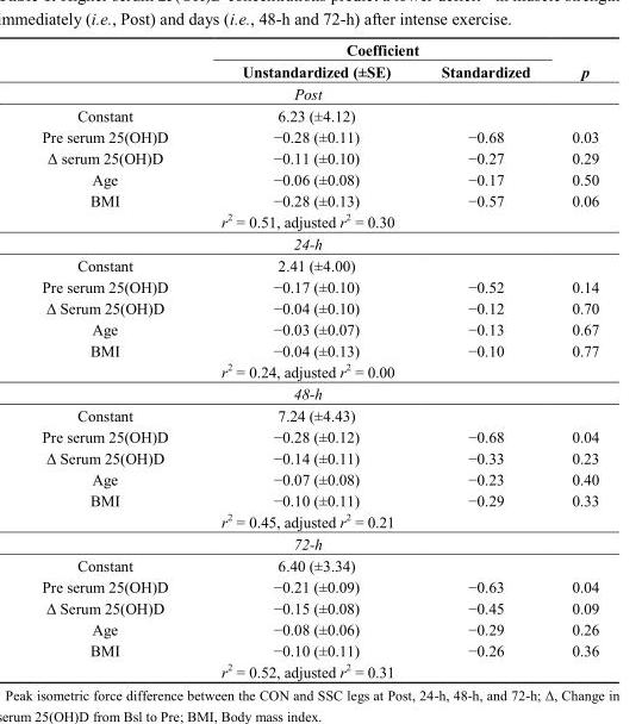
<table><thead><tr><td rowspan="2"></td><td colspan="2">Coefficient</td><td rowspan="2">p</td></tr><tr><td>Unstandardized (±SE)</td><td>Standardized</td></tr></thead><tbody><tr><td colspan="4">Post</td></tr><tr><td>Constant</td><td>6.23 (±4.12)</td><td></td><td></td></tr><tr><td>Pre serum 25(OH)D</td><td>−0.28 (±0.11)</td><td>−0.68</td><td>0.03</td></tr><tr><td>Δ serum 25(OH)D</td><td>−0.11 (±0.10)</td><td>−0.27</td><td>0.29</td></tr><tr><td>Age</td><td>−0.06 (±0.08)</td><td>−0.17</td><td>0.50</td></tr><tr><td>BMI</td><td>−0.28 (±0.13)</td><td>−0.57</td><td>0.06</td></tr><tr><td colspan="4">r<sup>2</sup> = 0.51, adjusted r<sup>2</sup> = 0.30</td></tr><tr><td colspan="4">24-h</td></tr><tr><td>Constant</td><td>2.41 (±4.00)</td><td></td><td></td></tr><tr><td>Pre serum 25(OH)D</td><td>−0.17 (±0.10)</td><td>−0.52</td><td>0.14</td></tr><tr><td>Δ Serum 25(OH)D</td><td>−0.04 (±0.10)</td><td>−0.12</td><td>0.70</td></tr><tr><td>Age</td><td>−0.03 (±0.07)</td><td>−0.13</td><td>0.67</td></tr><tr><td>BMI</td><td>−0.04 (±0.13)</td><td>−0.10</td><td>0.77</td></tr><tr><td colspan="4">r<sup>2</sup> = 0.24, adjusted r<sup>2</sup> = 0.00</td></tr><tr><td colspan="4">48-h</td></tr><tr><td>Constant</td><td>7.24 (±4.43)</td><td></td><td></td></tr><tr><td>Pre serum 25(OH)D</td><td>−0.28 (±0.12)</td><td>−0.68</td><td>0.04</td></tr><tr><td>Δ Serum 25(OH)D</td><td>−0.14 (±0.11)</td><td>−0.33</td><td>0.23</td></tr><tr><td>Age</td><td>−0.07 (±0.08)</td><td>−0.23</td><td>0.40</td></tr><tr><td>BMI</td><td>−0.10 (±0.11)</td><td>−0.29</td><td>0.33</td></tr><tr><td colspan="4">r<sup>2</sup> = 0.45, adjusted r<sup>2</sup> = 0.21</td></tr><tr><td colspan="4">72-h</td></tr><tr><td>Constant</td><td>6.40 (±3.34)</td><td></td><td></td></tr><tr><td>Pre serum 25(OH)D</td><td>−0.21 (±0.09)</td><td>−0.63</td><td>0.04</td></tr><tr><td>Δ Serum 25(OH)D</td><td>−0.15 (±0.08)</td><td>−0.45</td><td>0.09</td></tr><tr><td>Age</td><td>−0.08 (±0.06)</td><td>−0.29</td><td>0.26</td></tr><tr><td>BMI</td><td>−0.10 (±0.11)</td><td>−0.26</td><td>0.36</td></tr><tr><td colspan="4">r<sup>2</sup> = 0.52, adjusted r<sup>2</sup> = 0.31</td></tr></tbody></table>